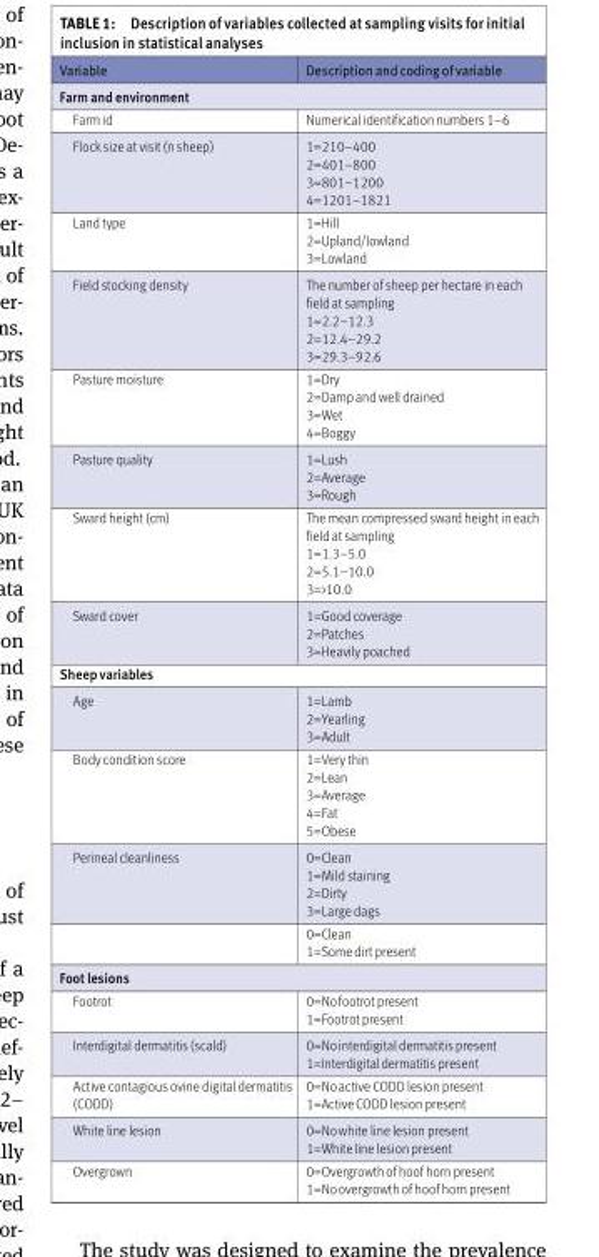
<table><thead><tr><td>Variable</td><td>Description and coding of variable</td></tr></thead><tbody><tr><td colspan="2">Farm and environment</td></tr><tr><td>Farm id</td><td>Numerical identification numbers 1–6</td></tr><tr><td>Flock size at visit (n sheep)</td><td>1=210–400 2=401–800 3=801–1200 4=1201–1821</td></tr><tr><td>Land type</td><td>1=Hill 2=Upland/lowland 3=Lowland</td></tr><tr><td>Field stocking density</td><td>The number of sheep per hectare in each field at sampling 1=2.2–12.3 2=12.4–29.2 3=29.3–92.6</td></tr><tr><td>Pasture moisture</td><td>1=Dry 2=Damp and well drained 3=Wet 4=Boggy</td></tr><tr><td>Pasture quality</td><td>1=Lush 2=Average 3=Rough</td></tr><tr><td>Sward height (cm)</td><td>The mean compressed sward height in each field at sampling 1=1.3–5.0 2=5.1–10.0 3=&gt;10.0</td></tr><tr><td>Sward cover</td><td>1=Good coverage 2=Patches 3=Heavily poached</td></tr><tr><td colspan="2">Sheep variables</td></tr><tr><td>Age</td><td>1=Lamb 2=Yearling 3=Adult</td></tr><tr><td>Body condition score</td><td>1=Very thin 2=Lean 3=Average 4=Fat 5=Obese</td></tr><tr><td rowspan="2">Perineal cleanliness</td><td>0=Clean 1=Mild staining 2=Dirty 3=Large dags</td></tr><tr><td>0=Clean 1=Some dirt present</td></tr><tr><td colspan="2">Foot lesions</td></tr><tr><td>Footrot</td><td>0=No footrot present 1=Footrot present</td></tr><tr><td>Interdigital dermatitis (scald)</td><td>0=No interdigital dermatitis present 1=Interdigital dermatitis present</td></tr><tr><td>Active contagious ovine digital dermatitis (CODD)</td><td>0=No active CODD lesion present 1=Active CODD lesion present</td></tr><tr><td>White line lesion</td><td>0=No white line lesion present 1=White line lesion present</td></tr><tr><td>Overgrown</td><td>0=Overgrowth of hoof horn present 1=No overgrowth of hoof horn present</td></tr></tbody></table>